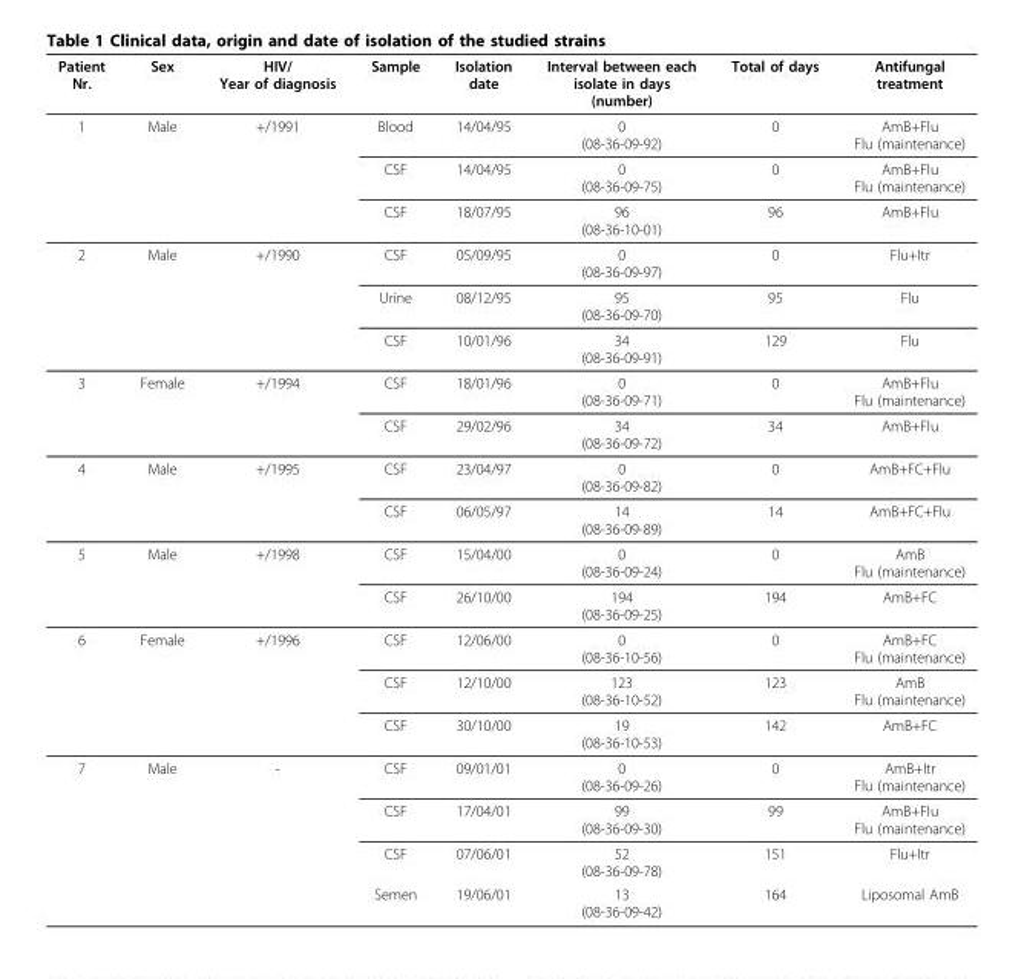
<table><thead><tr><td>Patient Nr.</td><td>Sex</td><td>HIV/ Year of diagnosis</td><td>Sample</td><td>Isolation date</td><td>Interval between each isolate in days (number)</td><td>Total of days</td><td>Antifungal treatment</td></tr></thead><tbody><tr><td rowspan="3">1</td><td>Male</td><td>+/1991</td><td>Blood</td><td>14/04/95</td><td>0 (08-36-09-92)</td><td>0</td><td>AmB+Flu Flu (maintenance)</td></tr><tr><td></td><td></td><td>CSF</td><td>14/04/95</td><td>0 (08-36-09-75)</td><td>0</td><td>AmB+Flu Flu (maintenance)</td></tr><tr><td></td><td></td><td>CSF</td><td>18/07/95</td><td>96 (08-36-10-01)</td><td>96</td><td>AmB+Flu</td></tr><tr><td rowspan="3">2</td><td>Male</td><td>+/1990</td><td>CSF</td><td>05/09/95</td><td>0 (08-36-09-97)</td><td>0</td><td>Flu+Itr</td></tr><tr><td></td><td></td><td>Urine</td><td>08/12/95</td><td>95 (08-36-09-70)</td><td>95</td><td>Flu</td></tr><tr><td></td><td></td><td>CSF</td><td>10/01/96</td><td>34 (08-36-09-91)</td><td>129</td><td>Flu</td></tr><tr><td rowspan="2">3</td><td>Female</td><td>+/1994</td><td>CSF</td><td>18/01/96</td><td>0 (08-36-09-71)</td><td>0</td><td>AmB+Flu Flu (maintenance)</td></tr><tr><td></td><td></td><td>CSF</td><td>29/02/96</td><td>34 (08-36-09-72)</td><td>34</td><td>AmB+Flu</td></tr><tr><td rowspan="2">4</td><td>Male</td><td>+/1995</td><td>CSF</td><td>23/04/97</td><td>0 (08-36-09-82)</td><td>0</td><td>AmB+FC+Flu</td></tr><tr><td></td><td></td><td>CSF</td><td>06/05/97</td><td>14 (08-36-09-89)</td><td>14</td><td>AmB+FC+Flu</td></tr><tr><td rowspan="2">5</td><td>Male</td><td>+/1998</td><td>CSF</td><td>15/04/00</td><td>0 (08-36-09-24)</td><td>0</td><td>AmB Flu (maintenance)</td></tr><tr><td></td><td></td><td>CSF</td><td>26/10/00</td><td>194 (08-36-09-25)</td><td>194</td><td>AmB+FC</td></tr><tr><td rowspan="3">6</td><td>Female</td><td>+/1996</td><td>CSF</td><td>12/06/00</td><td>0 (08-36-10-56)</td><td>0</td><td>AmB+FC Flu (maintenance)</td></tr><tr><td></td><td></td><td>CSF</td><td>12/10/00</td><td>123 (08-36-10-52)</td><td>123</td><td>AmB Flu (maintenance)</td></tr><tr><td></td><td></td><td>CSF</td><td>30/10/00</td><td>19 (08-36-10-53)</td><td>142</td><td>AmB+FC</td></tr><tr><td rowspan="4">7</td><td>Male</td><td>-</td><td>CSF</td><td>09/01/01</td><td>0 (08-36-09-26)</td><td>0</td><td>AmB+Itr Flu (maintenance)</td></tr><tr><td></td><td></td><td>CSF</td><td>17/04/01</td><td>99 (08-36-09-30)</td><td>99</td><td>AmB+Flu Flu (maintenance)</td></tr><tr><td></td><td></td><td>CSF</td><td>07/06/01</td><td>52 (08-36-09-78)</td><td>151</td><td>Flu+Itr</td></tr><tr><td></td><td></td><td>Semen</td><td>19/06/01</td><td>13 (08-36-09-42)</td><td>164</td><td>Liposomal AmB</td></tr></tbody></table>